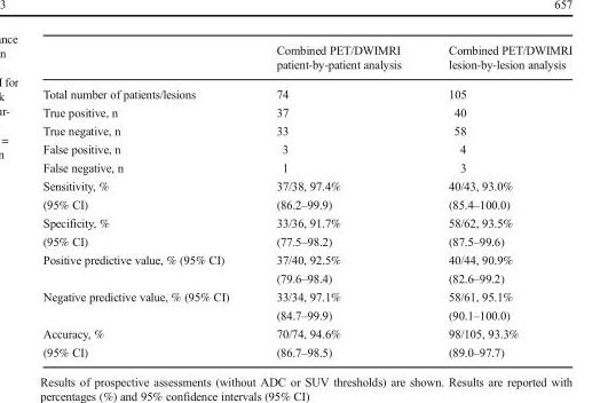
<table><thead><tr><td></td><td>Combined PET/DWIMRI patient-by-patient analysis</td><td>Combined PET/DWIMRI lesion-by-lesion analysis</td></tr></thead><tbody><tr><td>Total number of patients/lesions</td><td>74</td><td>105</td></tr><tr><td>True positive, n</td><td>37</td><td>40</td></tr><tr><td>True negative, n</td><td>33</td><td>58</td></tr><tr><td>False positive, n</td><td>3</td><td>4</td></tr><tr><td>False negative, n</td><td>1</td><td>3</td></tr><tr><td>Sensitivity, % (95% CI)</td><td>37/38, 97.4% (86.2–99.9)</td><td>40/43, 93.0% (85.4–100.0)</td></tr><tr><td>Specificity, % (95% CI)</td><td>33/36, 91.7% (77.5–98.2)</td><td>58/62, 93.5% (87.5–99.6)</td></tr><tr><td>Positive predictive value, % (95% CI)</td><td>37/40, 92.5% (79.6–98.4)</td><td>40/44, 90.9% (82.6–99.2)</td></tr><tr><td>Negative predictive value, % (95% CI)</td><td>33/34, 97.1% (84.7–99.9)</td><td>58/61, 95.1% (90.1–100.0)</td></tr><tr><td>Accuracy, % (95% CI)</td><td>70/74, 94.6% (86.7–98.5)</td><td>98/105, 93.3% (89.0–97.7)</td></tr></tbody></table>